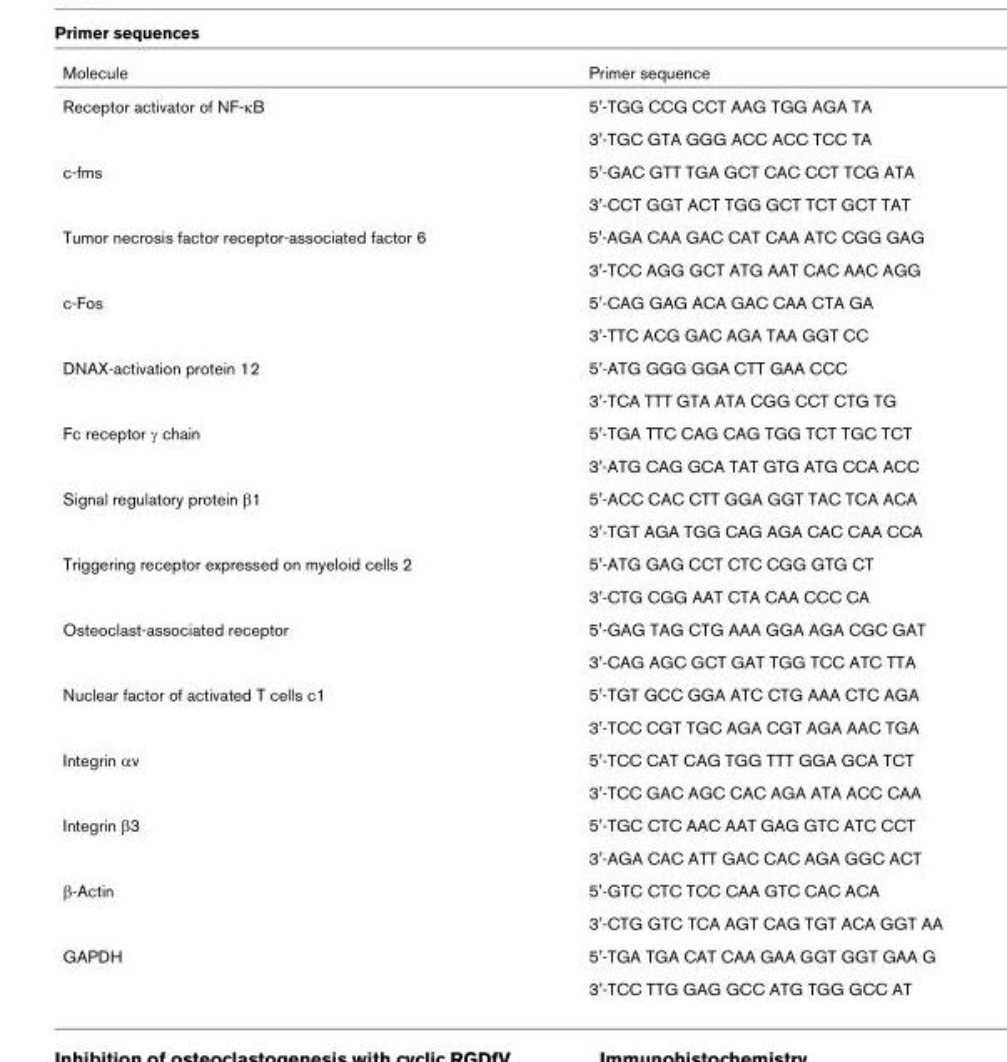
<table><thead><tr><td>Molecule</td><td>Primer sequence</td></tr></thead><tbody><tr><td rowspan="2">Receptor activator of NF-κB</td><td>5&#x27;-TGG CCG CCT AAG TGG AGA TA</td></tr><tr><td>3&#x27;-TGC GTA GGG ACC ACC TCC TA</td></tr><tr><td rowspan="2">c-fms</td><td>5&#x27;-GAC GTT TGA GCT CAC CCT TCG ATA</td></tr><tr><td>3&#x27;-CCT GGT ACT TGG GCT TCT GCT TAT</td></tr><tr><td rowspan="2">Tumor necrosis factor receptor-associated factor 6</td><td>5&#x27;-AGA CAA GAC CAT CAA ATC CGG GAG</td></tr><tr><td>3&#x27;-TCC AGG GCT ATG AAT CAC AAC AGG</td></tr><tr><td rowspan="2">c-Fos</td><td>5&#x27;-CAG GAG ACA GAC CAA CTA GA</td></tr><tr><td>3&#x27;-TTC ACG GAC AGA TAA GGT CC</td></tr><tr><td rowspan="2">DNAX-activation protein 12</td><td>5&#x27;-ATG GGG GGA CTT GAA CCC</td></tr><tr><td>3&#x27;-TCA TTT GTA ATA CGG CCT CTG TG</td></tr><tr><td rowspan="2">Fc receptor γ chain</td><td>5&#x27;-TGA TTC CAG CAG TGG TCT TGC TCT</td></tr><tr><td>3&#x27;-ATG CAG GCA TAT GTG ATG CCA ACC</td></tr><tr><td rowspan="2">Signal regulatory protein β1</td><td>5&#x27;-ACC CAC CTT GGA GGT TAC TCA ACA</td></tr><tr><td>3&#x27;-TGT AGA TGG CAG AGA CAC CAA CCA</td></tr><tr><td rowspan="2">Triggering receptor expressed on myeloid cells 2</td><td>5&#x27;-ATG GAG CCT CTC CGG GTG CT</td></tr><tr><td>3&#x27;-CTG CGG AAT CTA CAA CCC CA</td></tr><tr><td rowspan="2">Osteoclast-associated receptor</td><td>5&#x27;-GAG TAG CTG AAA GGA AGA CGC GAT</td></tr><tr><td>3&#x27;-CAG AGC GCT GAT TGG TCC ATC TTA</td></tr><tr><td rowspan="2">Nuclear factor of activated T cells c1</td><td>5&#x27;-TGT GCC GGA ATC CTG AAA CTC AGA</td></tr><tr><td>3&#x27;-TCC CGT TGC AGA CGT AGA AAC TGA</td></tr><tr><td rowspan="2">Integrin αv</td><td>5&#x27;-TCC CAT CAG TGG TTT GGA GCA TCT</td></tr><tr><td>3&#x27;-TCC GAC AGC CAC AGA ATA ACC CAA</td></tr><tr><td rowspan="2">Integrin β3</td><td>5&#x27;-TGC CTC AAC AAT GAG GTC ATC CCT</td></tr><tr><td>3&#x27;-AGA CAC ATT GAC CAC AGA GGC ACT</td></tr><tr><td rowspan="2">β-Actin</td><td>5&#x27;-GTC CTC TCC CAA GTC CAC ACA</td></tr><tr><td>3&#x27;-CTG GTC TCA AGT CAG TGT ACA GGT AA</td></tr><tr><td rowspan="2">GAPDH</td><td>5&#x27;-TGA TGA CAT CAA GAA GGT GGT GAA G</td></tr><tr><td>3&#x27;-TCC TTG GAG GCC ATG TGG GCC AT</td></tr></tbody></table>